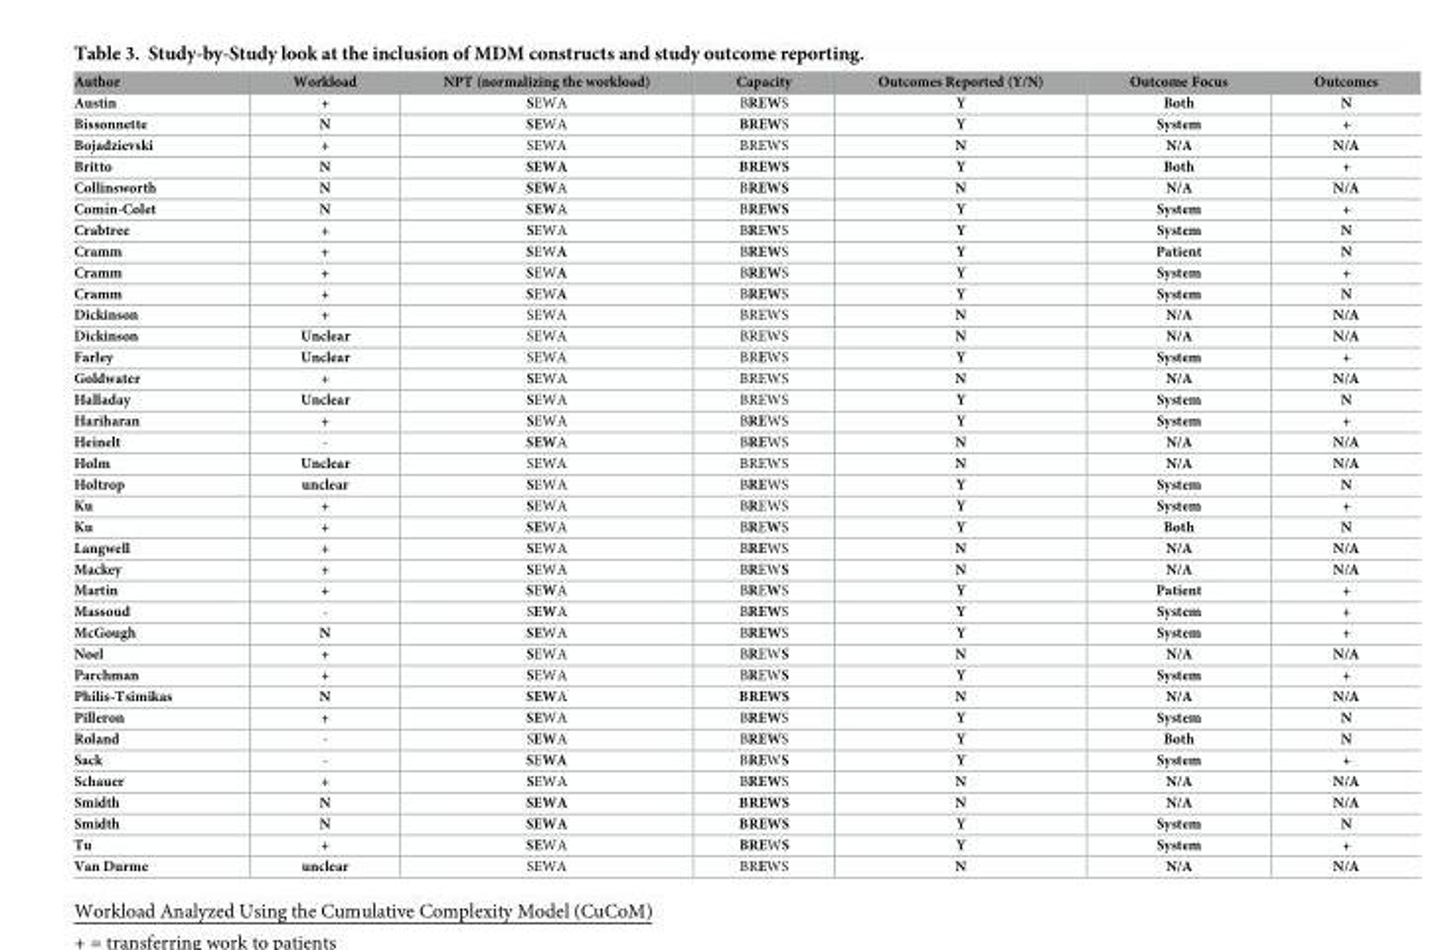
<table><thead><tr><td>Author</td><td>Workload</td><td>NPT (normalizing the workload)</td><td>Capacity</td><td>Outcomes Reported (Y/N)</td><td>Outcome Focus</td><td>Outcomes</td></tr></thead><tbody><tr><td>Austin</td><td>+</td><td>SEWA</td><td>BREWS</td><td>Y</td><td>Both</td><td>N</td></tr><tr><td>Bissonnette</td><td>N</td><td>SEWA</td><td>BREWS</td><td>Y</td><td>System</td><td>+</td></tr><tr><td>Bojadzievski</td><td>+</td><td>SEWA</td><td>BREWS</td><td>N</td><td>N/A</td><td>N/A</td></tr><tr><td>Britto</td><td>N</td><td>SEWA</td><td>BREWS</td><td>Y</td><td>Both</td><td>+</td></tr><tr><td>Collinsworth</td><td>N</td><td>SEWA</td><td>BREWS</td><td>N</td><td>N/A</td><td>N/A</td></tr><tr><td>Comı´n-Colet</td><td>N</td><td>SEWA</td><td>BREWS</td><td>Y</td><td>System</td><td>+</td></tr><tr><td>Crabtree</td><td>+</td><td>SEWA</td><td>BREWS</td><td>Y</td><td>System</td><td>N</td></tr><tr><td>Cramm</td><td>+</td><td>SEWA</td><td>BREWS</td><td>Y</td><td>Patient</td><td>N</td></tr><tr><td>Cramm</td><td>+</td><td>SEWA</td><td>BREWS</td><td>Y</td><td>System</td><td>+</td></tr><tr><td>Cramm</td><td>+</td><td>SEWA</td><td>BREWS</td><td>Y</td><td>System</td><td>N</td></tr><tr><td>Dickinson</td><td>+</td><td>SEWA</td><td>BREWS</td><td>N</td><td>N/A</td><td>N/A</td></tr><tr><td>Dickinson</td><td>Unclear</td><td>SEWA</td><td>BREWS</td><td>N</td><td>N/A</td><td>N/A</td></tr><tr><td>Farley</td><td>Unclear</td><td>SEWA</td><td>BREWS</td><td>Y</td><td>System</td><td>+</td></tr><tr><td>Goldwater</td><td>+</td><td>SEWA</td><td>BREWS</td><td>N</td><td>N/A</td><td>N/A</td></tr><tr><td>Halladay</td><td>Unclear</td><td>SEWA</td><td>BREWS</td><td>Y</td><td>System</td><td>N</td></tr><tr><td>Hariharan</td><td>+</td><td>SEWA</td><td>BREWS</td><td>Y</td><td>System</td><td>+</td></tr><tr><td>Heinelt</td><td>-</td><td>SEWA</td><td>BREWS</td><td>N</td><td>N/A</td><td>N/A</td></tr><tr><td>Holm</td><td>Unclear</td><td>SEWA</td><td>BREWS</td><td>N</td><td>N/A</td><td>N/A</td></tr><tr><td>Holtrop</td><td>unclear</td><td>SEWA</td><td>BREWS</td><td>Y</td><td>System</td><td>N</td></tr><tr><td>Ku</td><td>+</td><td>SEWA</td><td>BREWS</td><td>Y</td><td>System</td><td>+</td></tr><tr><td>Ku</td><td>+</td><td>SEWA</td><td>BREWS</td><td>Y</td><td>Both</td><td>N</td></tr><tr><td>Langwell</td><td>+</td><td>SEWA</td><td>BREWS</td><td>N</td><td>N/A</td><td>N/A</td></tr><tr><td>Mackey</td><td>+</td><td>SEWA</td><td>BREWS</td><td>N</td><td>N/A</td><td>N/A</td></tr><tr><td>Martin</td><td>+</td><td>SEWA</td><td>BREWS</td><td>Y</td><td>Patient</td><td>+</td></tr><tr><td>Massoud</td><td>-</td><td>SEWA</td><td>BREWS</td><td>Y</td><td>System</td><td>+</td></tr><tr><td>McGough</td><td>N</td><td>SEWA</td><td>BREWS</td><td>Y</td><td>System</td><td>+</td></tr><tr><td>Noel</td><td>+</td><td>SEWA</td><td>BREWS</td><td>N</td><td>N/A</td><td>N/A</td></tr><tr><td>Parchman</td><td>+</td><td>SEWA</td><td>BREWS</td><td>Y</td><td>System</td><td>+</td></tr><tr><td>Philis-Tsimikas</td><td>N</td><td>SEWA</td><td>BREWS</td><td>N</td><td>N/A</td><td>N/A</td></tr><tr><td>Pilleron</td><td>+</td><td>SEWA</td><td>BREWS</td><td>Y</td><td>System</td><td>N</td></tr><tr><td>Roland</td><td>-</td><td>SEWA</td><td>BREWS</td><td>Y</td><td>Both</td><td>N</td></tr><tr><td>Sack</td><td>-</td><td>SEWA</td><td>BREWS</td><td>Y</td><td>System</td><td>+</td></tr><tr><td>Schauer</td><td>+</td><td>SEWA</td><td>BREWS</td><td>N</td><td>N/A</td><td>N/A</td></tr><tr><td>Smidth</td><td>N</td><td>SEWA</td><td>BREWS</td><td>N</td><td>N/A</td><td>N/A</td></tr><tr><td>Smidth</td><td>N</td><td>SEWA</td><td>BREWS</td><td>Y</td><td>System</td><td>N</td></tr><tr><td>Tu</td><td>+</td><td>SEWA</td><td>BREWS</td><td>Y</td><td>System</td><td>+</td></tr><tr><td>Van Durme</td><td>unclear</td><td>SEWA</td><td>BREWS</td><td>N</td><td>N/A</td><td>N/A</td></tr></tbody></table>